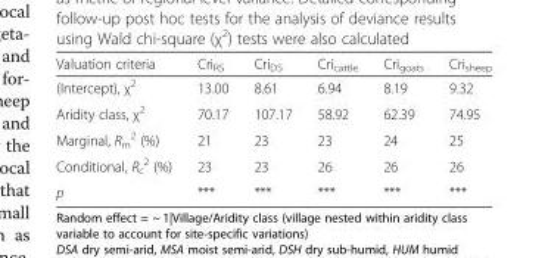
<table><thead><tr><td>Valuation criteria</td><td>Cri<sub>RS</sub></td><td>Cri<sub>DS</sub></td><td>Cri<sub>cattle</sub></td><td>Cri<sub>goats</sub></td><td>Cri<sub>sheep</sub></td></tr></thead><tbody><tr><td>(Intercept), χ<sup>2</sup></td><td>13.00</td><td>8.61</td><td>6.94</td><td>8.19</td><td>9.32</td></tr><tr><td>Aridity class, χ<sup>2</sup></td><td>70.17</td><td>107.17</td><td>58.92</td><td>62.39</td><td>74.95</td></tr><tr><td>Marginal, R<sub>m</sub> <sup>2</sup> (%)</td><td>21</td><td>23</td><td>23</td><td>24</td><td>25</td></tr><tr><td>Conditional, R<sub>c</sub> <sup>2</sup> (%)</td><td>23</td><td>23</td><td>26</td><td>26</td><td>26</td></tr><tr><td>p</td><td>***</td><td>***</td><td>***</td><td>***</td><td>***</td></tr></tbody></table>